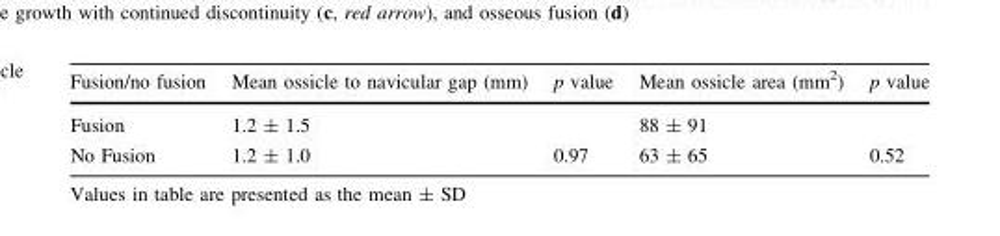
<table><thead><tr><td>Fusion/no fusion</td><td>Mean ossicle to navicular gap (mm)</td><td>p value</td><td>Mean ossicle area (mm<sup>2</sup>)</td><td>p value</td></tr></thead><tbody><tr><td>Fusion</td><td>1.2 ± 1.5</td><td></td><td>88 ± 91</td><td></td></tr><tr><td>No Fusion</td><td>1.2 ± 1.0</td><td>0.97</td><td>63 ± 65</td><td>0.52</td></tr></tbody></table>